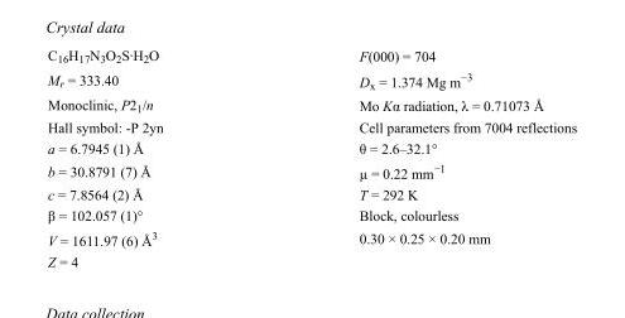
<table><tbody><tr><td>C<sub>16</sub>H<sub>17</sub>N<sub>3</sub>O<sub>2</sub>S·H<sub>2</sub>O</td><td>F(000) = 704</td></tr><tr><td>M<sub>r</sub> = 333.40</td><td>D<sub>x</sub> = 1.374 Mg m<sup>−3</sup></td></tr><tr><td>Monoclinic, P2<sub>1</sub>/n</td><td>Mo Kα radiation, λ = 0.71073 Å</td></tr><tr><td>Hall symbol: -P 2yn</td><td>Cell parameters from 7004 reflections</td></tr><tr><td>a = 6.7945 (1) Å</td><td>θ = 2.6–32.1°</td></tr><tr><td>b = 30.8791 (7) Å</td><td>µ = 0.22 mm<sup>−1</sup></td></tr><tr><td>c = 7.8564 (2) Å</td><td>T = 292 K</td></tr><tr><td>β = 102.057 (1)°</td><td>Block, colourless</td></tr><tr><td>V = 1611.97 (6) Å<sup>3</sup></td><td>0.30 × 0.25 × 0.20 mm</td></tr><tr><td>Z = 4</td><td></td></tr></tbody></table>